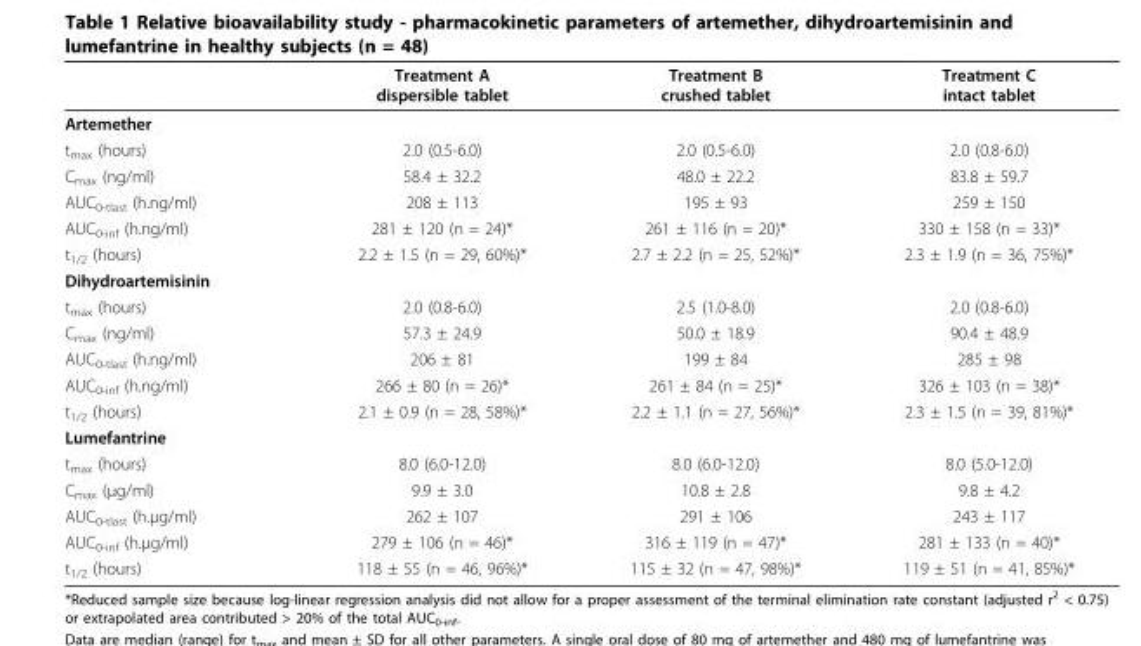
<table><thead><tr><td></td><td>Treatment A dispersible tablet</td><td>Treatment B crushed tablet</td><td>Treatment C intact tablet</td></tr></thead><tbody><tr><td colspan="4">Artemether</td></tr><tr><td>t<sub>max</sub> (hours)</td><td>2.0 (0.5-6.0)</td><td>2.0 (0.5-6.0)</td><td>2.0 (0.8-6.0)</td></tr><tr><td>C<sub>max</sub> (ng/ml)</td><td>58.4 ± 32.2</td><td>48.0 ± 22.2</td><td>83.8 ± 59.7</td></tr><tr><td>AUC<sub>0-tlast</sub> (h.ng/ml)</td><td>208 ± 113</td><td>195 ± 93</td><td>259 ± 150</td></tr><tr><td>AUC<sub>0-inf</sub> (h.ng/ml)</td><td>281 ± 120 (n = 24)*</td><td>261 ± 116 (n = 20)*</td><td>330 ± 158 (n = 33)*</td></tr><tr><td>t<sub>1/2</sub> (hours)</td><td>2.2 ± 1.5 (n = 29, 60%)*</td><td>2.7 ± 2.2 (n = 25, 52%)*</td><td>2.3 ± 1.9 (n = 36, 75%)*</td></tr><tr><td colspan="4">Dihydroartemisinin</td></tr><tr><td>t<sub>max</sub> (hours)</td><td>2.0 (0.8-6.0)</td><td>2.5 (1.0-8.0)</td><td>2.0 (0.8-6.0)</td></tr><tr><td>C<sub>max</sub> (ng/ml)</td><td>57.3 ± 24.9</td><td>50.0 ± 18.9</td><td>90.4 ± 48.9</td></tr><tr><td>AUC<sub>0-tlast</sub> (h.ng/ml)</td><td>206 ± 81</td><td>199 ± 84</td><td>285 ± 98</td></tr><tr><td>AUC<sub>0-inf</sub> (h.ng/ml)</td><td>266 ± 80 (n = 26)*</td><td>261 ± 84 (n = 25)*</td><td>326 ± 103 (n = 38)*</td></tr><tr><td>t<sub>1/2</sub> (hours)</td><td>2.1 ± 0.9 (n = 28, 58%)*</td><td>2.2 ± 1.1 (n = 27, 56%)*</td><td>2.3 ± 1.5 (n = 39, 81%)*</td></tr><tr><td colspan="4">Lumefantrine</td></tr><tr><td>t<sub>max</sub> (hours)</td><td>8.0 (6.0-12.0)</td><td>8.0 (6.0-12.0)</td><td>8.0 (5.0-12.0)</td></tr><tr><td>C<sub>max</sub> (μg/ml)</td><td>9.9 ± 3.0</td><td>10.8 ± 2.8</td><td>9.8 ± 4.2</td></tr><tr><td>AUC<sub>0-tlast</sub> (h.μg/ml)</td><td>262 ± 107</td><td>291 ± 106</td><td>243 ± 117</td></tr><tr><td>AUC<sub>0-inf</sub> (h.μg/ml)</td><td>279 ± 106 (n = 46)*</td><td>316 ± 119 (n = 47)*</td><td>281 ± 133 (n = 40)*</td></tr><tr><td>t<sub>1/2</sub> (hours)</td><td>118 ± 55 (n = 46, 96%)*</td><td>115 ± 32 (n = 47, 98%)*</td><td>119 ± 51 (n = 41, 85%)*</td></tr></tbody></table>